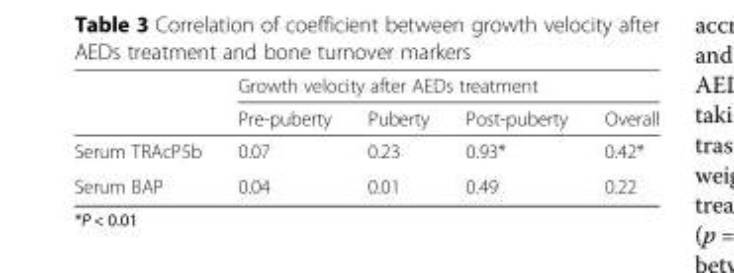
<table><thead><tr><td rowspan="2"></td><td colspan="4">Growth velocity after AEDs treatment</td></tr><tr><td>Pre-puberty</td><td>Puberty</td><td>Post-puberty</td><td>Overall</td></tr></thead><tbody><tr><td>Serum TRAcP5b</td><td>0.07</td><td>0.23</td><td>0.93*</td><td>0.42*</td></tr><tr><td>Serum BAP</td><td>0.04</td><td>0.01</td><td>0.49</td><td>0.22</td></tr></tbody></table>